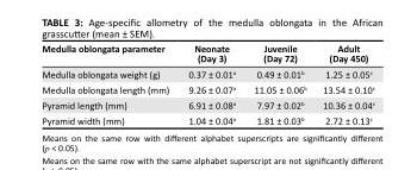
<table><thead><tr><td>Medulla oblongata parameter</td><td>Neonate (Day 3)</td><td>Juvenile (Day 72)</td><td>Adult (Day 450)</td></tr></thead><tbody><tr><td>Medulla oblongata weight (g)</td><td>0.37 ± 0.01<sup>a</sup></td><td>0.49 ± 0.01<sup>b</sup></td><td>1.25 ± 0.05<sup>c</sup></td></tr><tr><td>Medulla oblongata length (mm)</td><td>9.26 ± 0.07<sup>a</sup></td><td>11.05 ± 0.06<sup>b</sup></td><td>13.54 ± 0.10<sup>c</sup></td></tr><tr><td>Pyramid length (mm)</td><td>6.91 ± 0.08<sup>a</sup></td><td>7.97 ± 0.02<sup>b</sup></td><td>10.36 ± 0.04<sup>c</sup></td></tr><tr><td>Pyramid width (mm)</td><td>1.04 ± 0.04<sup>a</sup></td><td>1.81 ± 0.03<sup>b</sup></td><td>2.72 ± 0.13<sup>c</sup></td></tr></tbody></table>